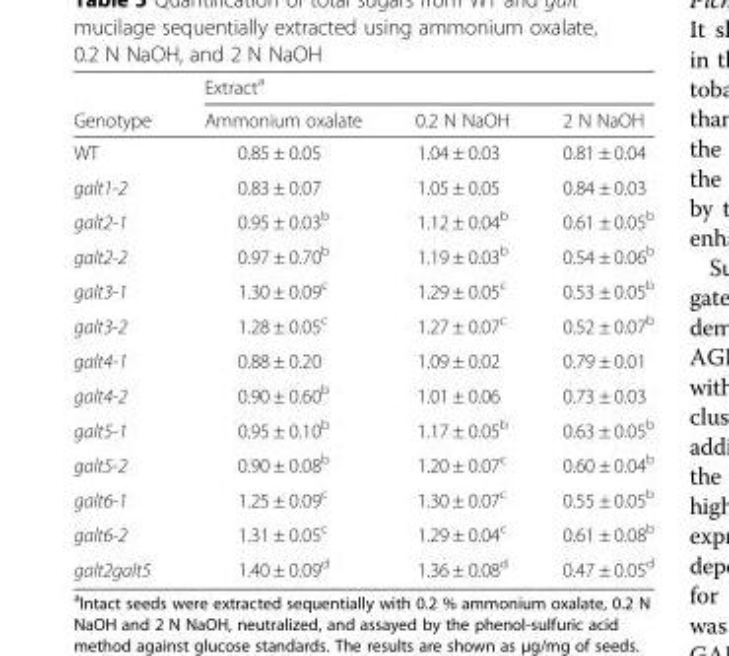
<table><thead><tr><td rowspan="2">Genotype</td><td colspan="3">Extract<sup>a</sup></td></tr><tr><td>Ammonium oxalate</td><td>0.2 N NaOH</td><td>2 N NaOH</td></tr></thead><tbody><tr><td>WT</td><td>0.85 ± 0.05</td><td>1.04 ± 0.03</td><td>0.81 ± 0.04</td></tr><tr><td>galt1-2</td><td>0.83 ± 0.07</td><td>1.05 ± 0.05</td><td>0.84 ± 0.03</td></tr><tr><td>galt2-1</td><td>0.95 ± 0.03<sup>b</sup></td><td>1.12 ± 0.04<sup>b</sup></td><td>0.61 ± 0.05<sup>b</sup></td></tr><tr><td>galt2-2</td><td>0.97 ± 0.70<sup>b</sup></td><td>1.19 ± 0.03<sup>b</sup></td><td>0.54 ± 0.06<sup>b</sup></td></tr><tr><td>galt3-1</td><td>1.30 ± 0.09<sup>c</sup></td><td>1.29 ± 0.05<sup>c</sup></td><td>0.53 ± 0.05<sup>b</sup></td></tr><tr><td>galt3-2</td><td>1.28 ± 0.05<sup>c</sup></td><td>1.27 ± 0.07<sup>c</sup></td><td>0.52 ± 0.07<sup>b</sup></td></tr><tr><td>galt4-1</td><td>0.88 ± 0.20</td><td>1.09 ± 0.02</td><td>0.79 ± 0.01</td></tr><tr><td>galt4-2</td><td>0.90 ± 0.60<sup>b</sup></td><td>1.01 ± 0.06</td><td>0.73 ± 0.03</td></tr><tr><td>galt5-1</td><td>0.95 ± 0.10<sup>b</sup></td><td>1.17 ± 0.05<sup>b</sup></td><td>0.63 ± 0.05<sup>b</sup></td></tr><tr><td>galt5-2</td><td>0.90 ± 0.08<sup>b</sup></td><td>1.20 ± 0.07<sup>c</sup></td><td>0.60 ± 0.04<sup>b</sup></td></tr><tr><td>galt6-1</td><td>1.25 ± 0.09<sup>c</sup></td><td>1.30 ± 0.07<sup>c</sup></td><td>0.55 ± 0.05<sup>b</sup></td></tr><tr><td>galt6-2</td><td>1.31 ± 0.05<sup>c</sup></td><td>1.29 ± 0.04<sup>c</sup></td><td>0.61 ± 0.08<sup>b</sup></td></tr><tr><td>galt2galt5</td><td>1.40 ± 0.09<sup>d</sup></td><td>1.36 ± 0.08<sup>d</sup></td><td>0.47 ± 0.05<sup>d</sup></td></tr></tbody></table>